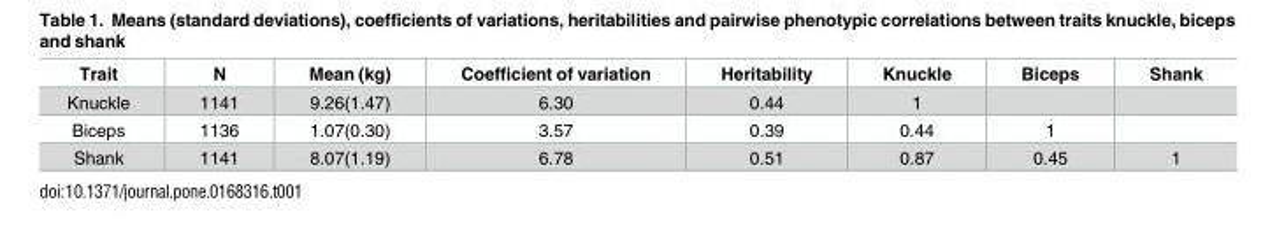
<table><thead><tr><td>Trait</td><td>N</td><td>Mean (kg)</td><td>Coefficient of variation</td><td>Heritability</td><td>Knuckle</td><td>Biceps</td><td>Shank</td></tr></thead><tbody><tr><td>Knuckle</td><td>1141</td><td>9.26(1.47)</td><td>6.30</td><td>0.44</td><td>1</td><td></td><td></td></tr><tr><td>Biceps</td><td>1136</td><td>1.07(0.30)</td><td>3.57</td><td>0.39</td><td>0.44</td><td>1</td><td></td></tr><tr><td>Shank</td><td>1141</td><td>8.07(1.19)</td><td>6.78</td><td>0.51</td><td>0.87</td><td>0.45</td><td>1</td></tr></tbody></table>